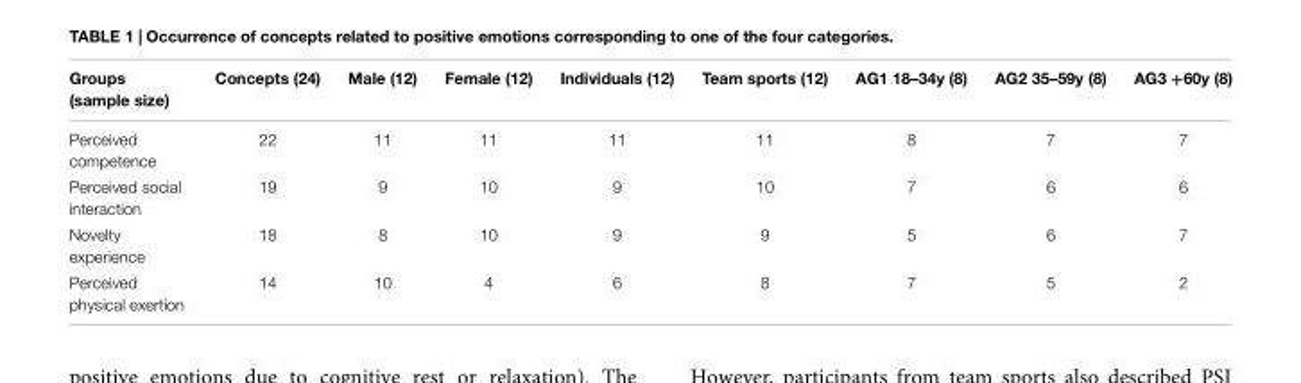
<table><thead><tr><td>Groups (sample size)</td><td>Concepts (24)</td><td>Male (12)</td><td>Female (12)</td><td>Individuals (12)</td><td>Team sports (12)</td><td>AG1 18–34y (8)</td><td>AG2 35–59y (8)</td><td>AG3 +60y (8)</td></tr></thead><tbody><tr><td>Perceived competence</td><td>22</td><td>11</td><td>11</td><td>11</td><td>11</td><td>8</td><td>7</td><td>7</td></tr><tr><td>Perceived social interaction</td><td>19</td><td>9</td><td>10</td><td>9</td><td>10</td><td>7</td><td>6</td><td>6</td></tr><tr><td>Novelty experience</td><td>18</td><td>8</td><td>10</td><td>9</td><td>9</td><td>5</td><td>6</td><td>7</td></tr><tr><td>Perceived physical exertion</td><td>14</td><td>10</td><td>4</td><td>6</td><td>8</td><td>7</td><td>5</td><td>2</td></tr></tbody></table>